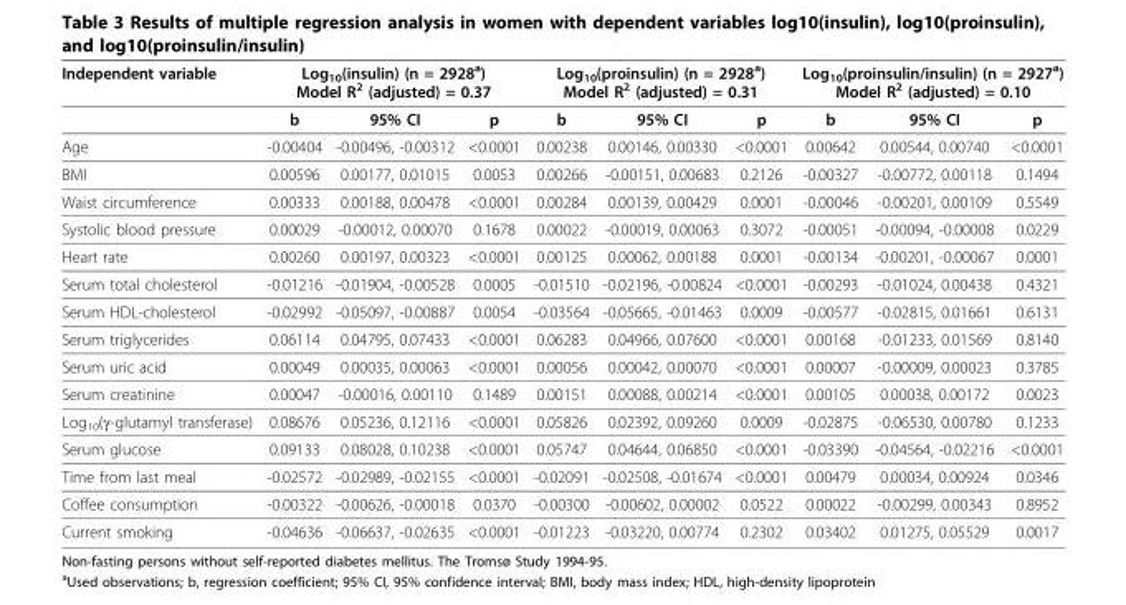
<table><thead><tr><td rowspan="2">Independent variable</td><td colspan="3">Log<sub>10</sub>(insulin) (n = 2928<sup>a</sup>) Model R<sup>2</sup> (adjusted) = 0.37</td><td colspan="3">Log<sub>10</sub>(proinsulin) (n = 2928<sup>a</sup>) Model R<sup>2</sup> (adjusted) = 0.31</td><td colspan="3">Log<sub>10</sub>(proinsulin/insulin) (n = 2927<sup>a</sup>) Model R<sup>2</sup> (adjusted) = 0.10</td></tr><tr><td>b</td><td>95% CI</td><td>p</td><td>b</td><td>95% CI</td><td>p</td><td>b</td><td>95% CI</td><td>p</td></tr></thead><tbody><tr><td>Age</td><td>-0.00404</td><td>-0.00496, -0.00312</td><td>&lt;0.0001</td><td>0.00238</td><td>0.00146, 0.00330</td><td>&lt;0.0001</td><td>0.00642</td><td>0.00544, 0.00740</td><td>&lt;0.0001</td></tr><tr><td>BMI</td><td>0.00596</td><td>0.00177, 0.01015</td><td>0.0053</td><td>0.00266</td><td>-0.00151, 0.00683</td><td>0.2126</td><td>-0.00327</td><td>-0.00772, 0.00118</td><td>0.1494</td></tr><tr><td>Waist circumference</td><td>0.00333</td><td>0.00188, 0.00478</td><td>&lt;0.0001</td><td>0.00284</td><td>0.00139, 0.00429</td><td>0.0001</td><td>-0.00046</td><td>-0.00201, 0.00109</td><td>0.5549</td></tr><tr><td>Systolic blood pressure</td><td>0.00029</td><td>-0.00012, 0.00070</td><td>0.1678</td><td>0.00022</td><td>-0.00019, 0.00063</td><td>0.3072</td><td>-0.00051</td><td>-0.00094, -0.00008</td><td>0.0229</td></tr><tr><td>Heart rate</td><td>0.00260</td><td>0.00197, 0.00323</td><td>&lt;0.0001</td><td>0.00125</td><td>0.00062, 0.00188</td><td>0.0001</td><td>-0.00134</td><td>-0.00201, -0.00067</td><td>0.0001</td></tr><tr><td>Serum total cholesterol</td><td>-0.01216</td><td>-0.01904, -0.00528</td><td>0.0005</td><td>-0.01510</td><td>-0.02196, -0.00824</td><td>&lt;0.0001</td><td>-0.00293</td><td>-0.01024, 0.00438</td><td>0.4321</td></tr><tr><td>Serum HDL-cholesterol</td><td>-0.02992</td><td>-0.05097, -0.00887</td><td>0.0054</td><td>-0.03564</td><td>-0.05665, -0.01463</td><td>0.0009</td><td>-0.00577</td><td>-0.02815, 0.01661</td><td>0.6131</td></tr><tr><td>Serum triglycerides</td><td>0.06114</td><td>0.04795, 0.07433</td><td>&lt;0.0001</td><td>0.06283</td><td>0.04966, 0.07600</td><td>&lt;0.0001</td><td>0.00168</td><td>-0.01233, 0.01569</td><td>0.8140</td></tr><tr><td>Serum uric acid</td><td>0.00049</td><td>0.00035, 0.00063</td><td>&lt;0.0001</td><td>0.00056</td><td>0.00042, 0.00070</td><td>&lt;0.0001</td><td>0.00007</td><td>-0.00009, 0.00023</td><td>0.3785</td></tr><tr><td>Serum creatinine</td><td>0.00047</td><td>-0.00016, 0.00110</td><td>0.1489</td><td>0.00151</td><td>0.00088, 0.00214</td><td>&lt;0.0001</td><td>0.00105</td><td>0.00038, 0.00172</td><td>0.0023</td></tr><tr><td>Log<sub>10</sub>(γ-glutamyl transferase)</td><td>0.08676</td><td>0.05236, 0.12116</td><td>&lt;0.0001</td><td>0.05826</td><td>0.02392, 0.09260</td><td>0.0009</td><td>-0.02875</td><td>-0.06530, 0.00780</td><td>0.1233</td></tr><tr><td>Serum glucose</td><td>0.09133</td><td>0.08028, 0.10238</td><td>&lt;0.0001</td><td>0.05747</td><td>0.04644, 0.06850</td><td>&lt;0.0001</td><td>-0.03390</td><td>-0.04564, -0.02216</td><td>&lt;0.0001</td></tr><tr><td>Time from last meal</td><td>-0.02572</td><td>-0.02989, -0.02155</td><td>&lt;0.0001</td><td>-0.02091</td><td>-0.02508, -0.01674</td><td>&lt;0.0001</td><td>0.00479</td><td>0.00034, 0.00924</td><td>0.0346</td></tr><tr><td>Coffee consumption</td><td>-0.00322</td><td>-0.00626, -0.00018</td><td>0.0370</td><td>-0.00300</td><td>-0.00602, 0.00002</td><td>0.0522</td><td>0.00022</td><td>-0.00299, 0.00343</td><td>0.8952</td></tr><tr><td>Current smoking</td><td>-0.04636</td><td>-0.06637, -0.02635</td><td>&lt;0.0001</td><td>-0.01223</td><td>-0.03220, 0.00774</td><td>0.2302</td><td>0.03402</td><td>0.01275, 0.05529</td><td>0.0017</td></tr></tbody></table>